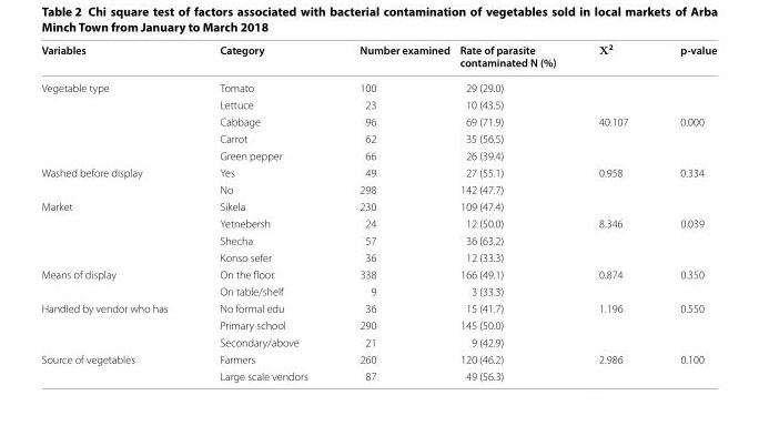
<table><thead><tr><td>Variables</td><td>Category</td><td>Number examined</td><td>Rate of parasite contaminated N (%)</td><td>Χ<sup>2</sup></td><td>p-value</td></tr></thead><tbody><tr><td rowspan="5">Vegetable type</td><td>Tomato</td><td>100</td><td>29 (29.0)</td><td></td><td></td></tr><tr><td>Lettuce</td><td>23</td><td>10 (43.5)</td><td></td><td></td></tr><tr><td>Cabbage</td><td>96</td><td>69 (71.9)</td><td>40.107</td><td>0.000</td></tr><tr><td>Carrot</td><td>62</td><td>35 (56.5)</td><td></td><td></td></tr><tr><td>Green pepper</td><td>66</td><td>26 (39.4)</td><td></td><td></td></tr><tr><td rowspan="2">Washed before display</td><td>Yes</td><td>49</td><td>27 (55.1)</td><td>0.958</td><td>0.334</td></tr><tr><td>No</td><td>298</td><td>142 (47.7)</td><td></td><td></td></tr><tr><td rowspan="4">Market</td><td>Sikela</td><td>230</td><td>109 (47.4)</td><td></td><td></td></tr><tr><td>Yetnebersh</td><td>24</td><td>12 (50.0)</td><td>8.346</td><td>0.039</td></tr><tr><td>Shecha</td><td>57</td><td>36 (63.2)</td><td></td><td></td></tr><tr><td>Konso sefer</td><td>36</td><td>12 (33.3)</td><td></td><td></td></tr><tr><td rowspan="2">Means of display</td><td>On the floor</td><td>338</td><td>166 (49.1)</td><td>0.874</td><td>0.350</td></tr><tr><td>On table/shelf</td><td>9</td><td>3 (33.3)</td><td></td><td></td></tr><tr><td rowspan="3">Handled by vendor who has</td><td>No formal edu</td><td>36</td><td>15 (41.7)</td><td>1.196</td><td>0.550</td></tr><tr><td>Primary school</td><td>290</td><td>145 (50.0)</td><td></td><td></td></tr><tr><td>Secondary/above</td><td>21</td><td>9 (42.9)</td><td></td><td></td></tr><tr><td rowspan="2">Source of vegetables</td><td>Farmers</td><td>260</td><td>120 (46.2)</td><td>2.986</td><td>0.100</td></tr><tr><td>Large scale vendors</td><td>87</td><td>49 (56.3)</td><td></td><td></td></tr></tbody></table>